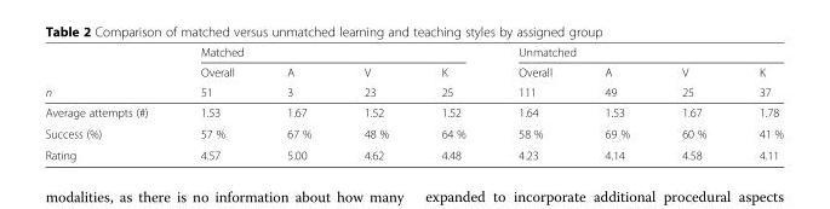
<table><thead><tr><td rowspan="3">n</td><td colspan="4">Matched</td><td colspan="4">Unmatched</td></tr><tr><td rowspan="2">Overall 51</td><td rowspan="2">A 3</td><td rowspan="2">V 23</td><td rowspan="2">K 25</td><td rowspan="2">Overall 111</td><td rowspan="2">A 49</td><td rowspan="2">V 25</td><td rowspan="2">K 37</td></tr><tr></tr></thead><tbody><tr><td>Average attempts (#)</td><td>1.53</td><td>1.67</td><td>1.52</td><td>1.52</td><td>1.64</td><td>1.53</td><td>1.67</td><td>1.78</td></tr><tr><td>Success (%)</td><td>57 %</td><td>67 %</td><td>48 %</td><td>64 %</td><td>58 %</td><td>69 %</td><td>60 %</td><td>41 %</td></tr><tr><td>Rating</td><td>4.57</td><td>5.00</td><td>4.62</td><td>4.48</td><td>4.23</td><td>4.14</td><td>4.58</td><td>4.11</td></tr></tbody></table>